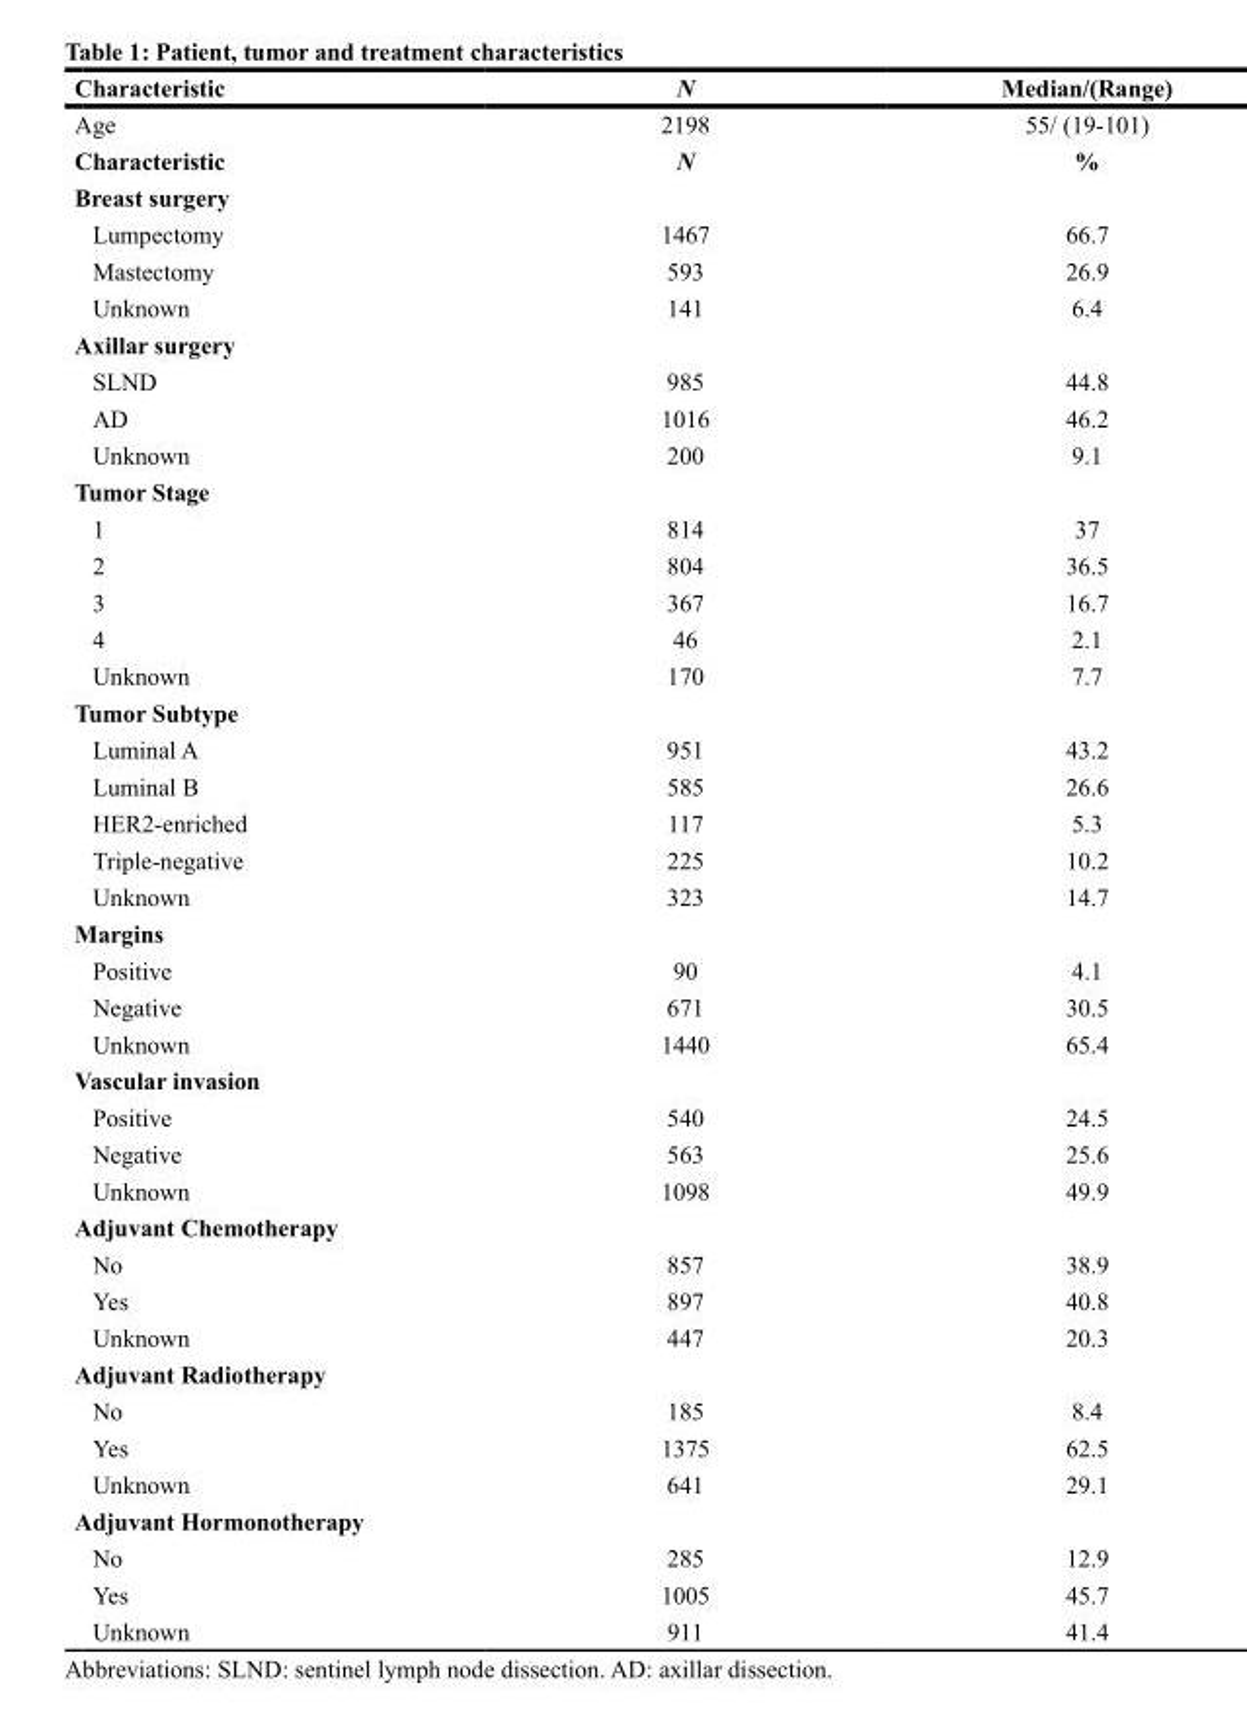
<table><thead><tr><td>Characteristic</td><td>N</td><td>Median/(Range)</td></tr></thead><tbody><tr><td>Age</td><td>2198</td><td>55/ (19-101)</td></tr><tr><td>Characteristic</td><td>N</td><td>%</td></tr><tr><td colspan="3">Breast surgery</td></tr><tr><td>Lumpectomy</td><td>1467</td><td>66.7</td></tr><tr><td>Mastectomy</td><td>593</td><td>26.9</td></tr><tr><td>Unknown</td><td>141</td><td>6.4</td></tr><tr><td colspan="3">Axillar surgery</td></tr><tr><td>SLND</td><td>985</td><td>44.8</td></tr><tr><td>AD</td><td>1016</td><td>46.2</td></tr><tr><td>Unknown</td><td>200</td><td>9.1</td></tr><tr><td colspan="3">Tumor Stage</td></tr><tr><td>1</td><td>814</td><td>37</td></tr><tr><td>2</td><td>804</td><td>36.5</td></tr><tr><td>3</td><td>367</td><td>16.7</td></tr><tr><td>4</td><td>46</td><td>2.1</td></tr><tr><td>Unknown</td><td>170</td><td>7.7</td></tr><tr><td colspan="3">Tumor Subtype</td></tr><tr><td>Luminal A</td><td>951</td><td>43.2</td></tr><tr><td>Luminal B</td><td>585</td><td>26.6</td></tr><tr><td>HER2-enriched</td><td>117</td><td>5.3</td></tr><tr><td>Triple-negative</td><td>225</td><td>10.2</td></tr><tr><td>Unknown</td><td>323</td><td>14.7</td></tr><tr><td colspan="3">Margins</td></tr><tr><td>Positive</td><td>90</td><td>4.1</td></tr><tr><td>Negative</td><td>671</td><td>30.5</td></tr><tr><td>Unknown</td><td>1440</td><td>65.4</td></tr><tr><td colspan="3">Vascular invasion</td></tr><tr><td>Positive</td><td>540</td><td>24.5</td></tr><tr><td>Negative</td><td>563</td><td>25.6</td></tr><tr><td>Unknown</td><td>1098</td><td>49.9</td></tr><tr><td colspan="3">Adjuvant Chemotherapy</td></tr><tr><td>No</td><td>857</td><td>38.9</td></tr><tr><td>Yes</td><td>897</td><td>40.8</td></tr><tr><td>Unknown</td><td>447</td><td>20.3</td></tr><tr><td colspan="3">Adjuvant Radiotherapy</td></tr><tr><td>No</td><td>185</td><td>8.4</td></tr><tr><td>Yes</td><td>1375</td><td>62.5</td></tr><tr><td>Unknown</td><td>641</td><td>29.1</td></tr><tr><td colspan="3">Adjuvant Hormonotherapy</td></tr><tr><td>No</td><td>285</td><td>12.9</td></tr><tr><td>Yes</td><td>1005</td><td>45.7</td></tr><tr><td>Unknown</td><td>911</td><td>41.4</td></tr></tbody></table>